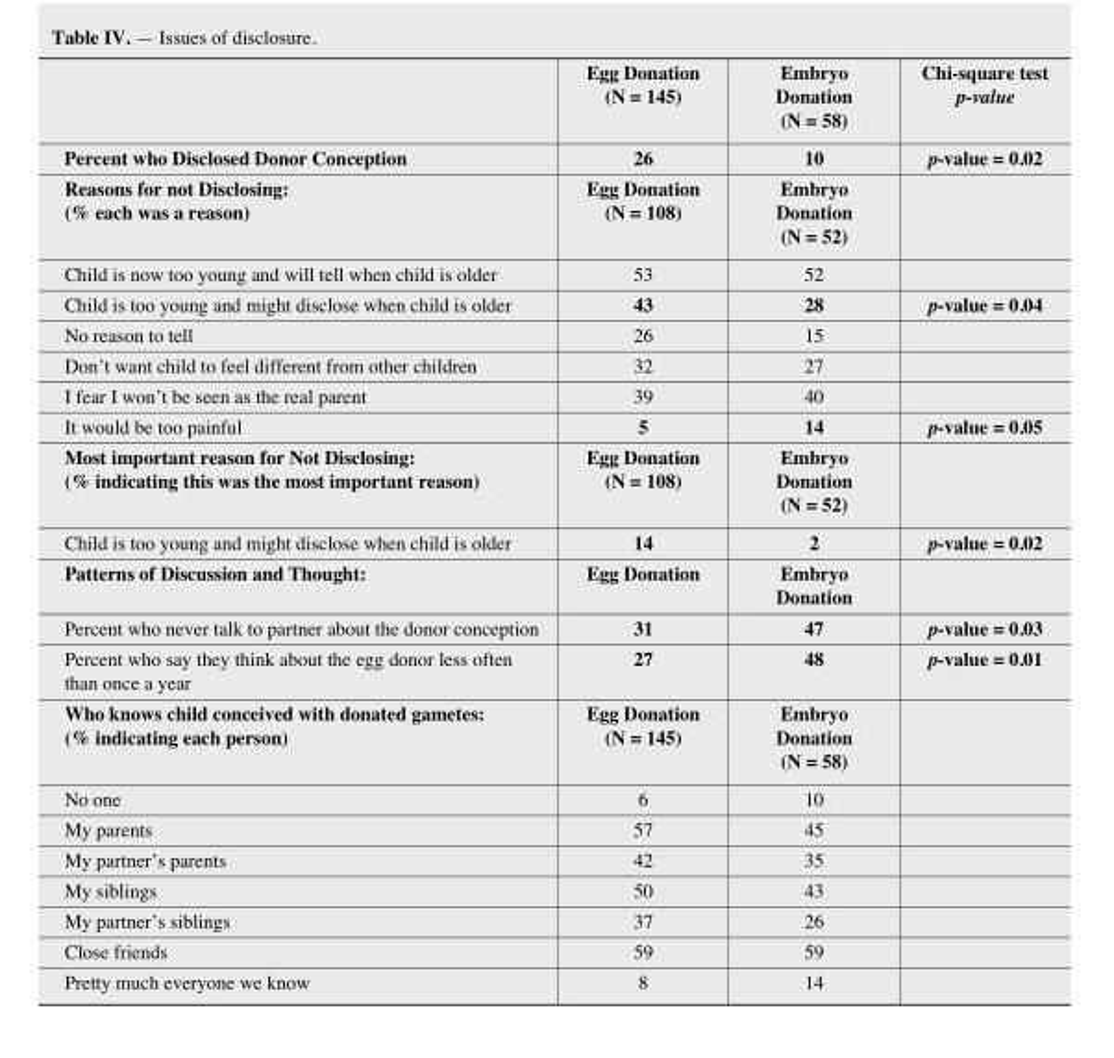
<table><thead><tr><td></td><td>Egg Donation (N = 145)</td><td>Embryo Donation (N = 58)</td><td>Chi-square test p-value</td></tr></thead><tbody><tr><td>Percent who Disclosed Donor Conception</td><td>26</td><td>10</td><td>p-value = 0.02</td></tr><tr><td>Reasons for not Disclosing: (% each was a reason)</td><td>Egg Donation (N = 108)</td><td>Embryo Donation (N = 52)</td><td></td></tr><tr><td>Child is now too young and will tell when child is older</td><td>53</td><td>52</td><td></td></tr><tr><td>Child is too young and might disclose when child is older</td><td>43</td><td>28</td><td>p-value = 0.04</td></tr><tr><td>No reason to tell</td><td>26</td><td>15</td><td></td></tr><tr><td>Don’t want child to feel different from other children</td><td>32</td><td>27</td><td></td></tr><tr><td>I fear I won’t be seen as the real parent</td><td>39</td><td>40</td><td></td></tr><tr><td>It would be too painful</td><td>5</td><td>14</td><td>p-value = 0.05</td></tr><tr><td>Most important reason for Not Disclosing: (% indicating this was the most important reason)</td><td>Egg Donation (N = 108)</td><td>Embryo Donation (N = 52)</td><td></td></tr><tr><td>Child is too young and might disclose when child is older</td><td>14</td><td>2</td><td>p-value = 0.02</td></tr><tr><td>Patterns of Discussion and Thought:</td><td>Egg Donation</td><td>Embryo Donation</td><td></td></tr><tr><td>Percent who never talk to partner about the donor conception</td><td>31</td><td>47</td><td>p-value = 0.03</td></tr><tr><td>Percent who say they think about the egg donor less often than once a year</td><td>27</td><td>48</td><td>p-value = 0.01</td></tr><tr><td>Who knows child conceived with donated gametes: (% indicating each person)</td><td>Egg Donation (N = 145)</td><td>Embryo Donation (N = 58)</td><td></td></tr><tr><td>No one</td><td>6</td><td>10</td><td></td></tr><tr><td>My parents</td><td>57</td><td>45</td><td></td></tr><tr><td>My partner’s parents</td><td>42</td><td>35</td><td></td></tr><tr><td>My siblings</td><td>50</td><td>43</td><td></td></tr><tr><td>My partner’s siblings</td><td>37</td><td>26</td><td></td></tr><tr><td>Close friends</td><td>59</td><td>59</td><td></td></tr><tr><td>Pretty much everyone we know</td><td>8</td><td>14</td><td></td></tr></tbody></table>